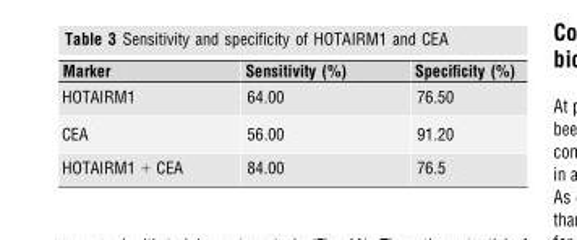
<table><thead><tr><td>Marker</td><td>Sensitivity (%)</td><td>Specificity (%)</td></tr></thead><tbody><tr><td>HOTAIRM1</td><td>64.00</td><td>76.50</td></tr><tr><td>CEA</td><td>56.00</td><td>91.20</td></tr><tr><td>HOTAIRM1 + CEA</td><td>84.00</td><td>76.5</td></tr></tbody></table>